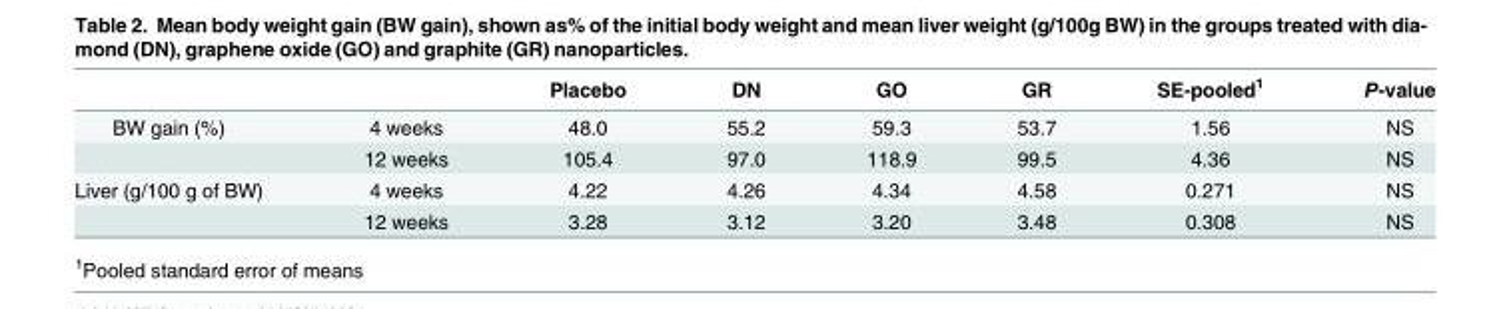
<table><thead><tr><td></td><td></td><td>Placebo</td><td>DN</td><td>GO</td><td>GR</td><td>SE-pooled<sup>1</sup></td><td>P-value</td></tr></thead><tbody><tr><td rowspan="2">BW gain (%)</td><td>4 weeks</td><td>48.0</td><td>55.2</td><td>59.3</td><td>53.7</td><td>1.56</td><td>NS</td></tr><tr><td>12 weeks</td><td>105.4</td><td>97.0</td><td>118.9</td><td>99.5</td><td>4.36</td><td>NS</td></tr><tr><td rowspan="2">Liver (g/100 g of BW)</td><td>4 weeks</td><td>4.22</td><td>4.26</td><td>4.34</td><td>4.58</td><td>0.271</td><td>NS</td></tr><tr><td>12 weeks</td><td>3.28</td><td>3.12</td><td>3.20</td><td>3.48</td><td>0.308</td><td>NS</td></tr></tbody></table>